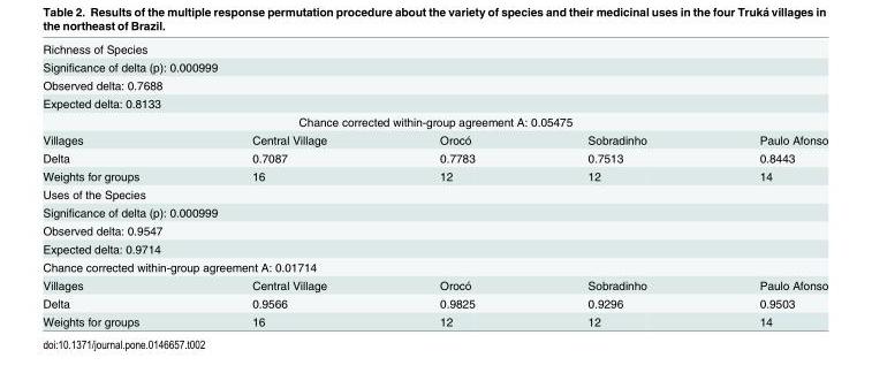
<table><tbody><tr><td colspan="5">Richness of Species</td></tr><tr><td colspan="5">Significance of delta (p): 0.000999</td></tr><tr><td colspan="5">Observed delta: 0.7688</td></tr><tr><td colspan="5">Expected delta: 0.8133</td></tr><tr><td colspan="5">Chance corrected within-group agreement A: 0.05475</td></tr><tr><td>Villages</td><td>Central Village</td><td>Orocó</td><td>Sobradinho</td><td>Paulo Afonso</td></tr><tr><td>Delta</td><td>0.7087</td><td>0.7783</td><td>0.7513</td><td>0.8443</td></tr><tr><td>Weights for groups</td><td>16</td><td>12</td><td>12</td><td>14</td></tr><tr><td colspan="5">Uses of the Species</td></tr><tr><td colspan="5">Significance of delta (p): 0.000999</td></tr><tr><td colspan="5">Observed delta: 0.9547</td></tr><tr><td colspan="5">Expected delta: 0.9714</td></tr><tr><td colspan="5">Chance corrected within-group agreement A: 0.01714</td></tr><tr><td>Villages</td><td>Central Village</td><td>Orocó</td><td>Sobradinho</td><td>Paulo Afonso</td></tr><tr><td>Delta</td><td>0.9566</td><td>0.9825</td><td>0.9296</td><td>0.9503</td></tr><tr><td>Weights for groups</td><td>16</td><td>12</td><td>12</td><td>14</td></tr></tbody></table>